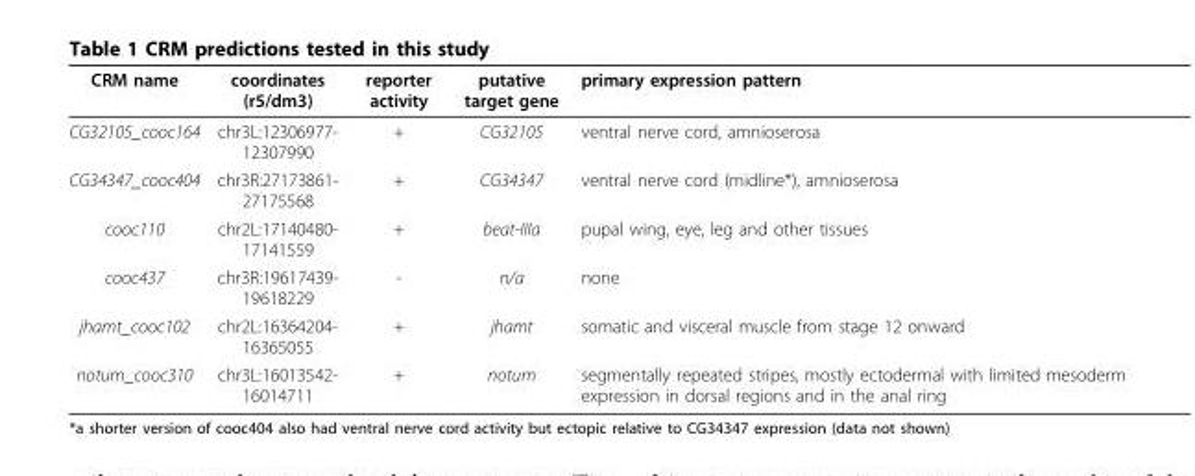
<table><thead><tr><td>CRM name</td><td>coordinates (r5/dm3)</td><td>reporter activity</td><td>putative target gene</td><td>primary expression pattern</td></tr></thead><tbody><tr><td>CG32105_cooc164</td><td>chr3L:12306977- 12307990</td><td>+</td><td>CG32105</td><td>ventral nerve cord, amnioserosa</td></tr><tr><td>CG34347_cooc404</td><td>chr3R:27173861- 27175568</td><td>+</td><td>CG34347</td><td>ventral nerve cord (midline*), amnioserosa</td></tr><tr><td>cooc110</td><td>chr2L:17140480- 17141559</td><td>+</td><td>beat-IIIa</td><td>pupal wing, eye, leg and other tissues</td></tr><tr><td>cooc437</td><td>chr3R:19617439- 19618229</td><td>-</td><td>n/a</td><td>none</td></tr><tr><td>jhamt_cooc102</td><td>chr2L:16364204- 16365055</td><td>+</td><td>jhamt</td><td>somatic and visceral muscle from stage 12 onward</td></tr><tr><td>notum_cooc310</td><td>chr3L:16013542- 16014711</td><td>+</td><td>notum</td><td>segmentally repeated stripes, mostly ectodermal with limited mesoderm expression in dorsal regions and in the anal ring</td></tr></tbody></table>